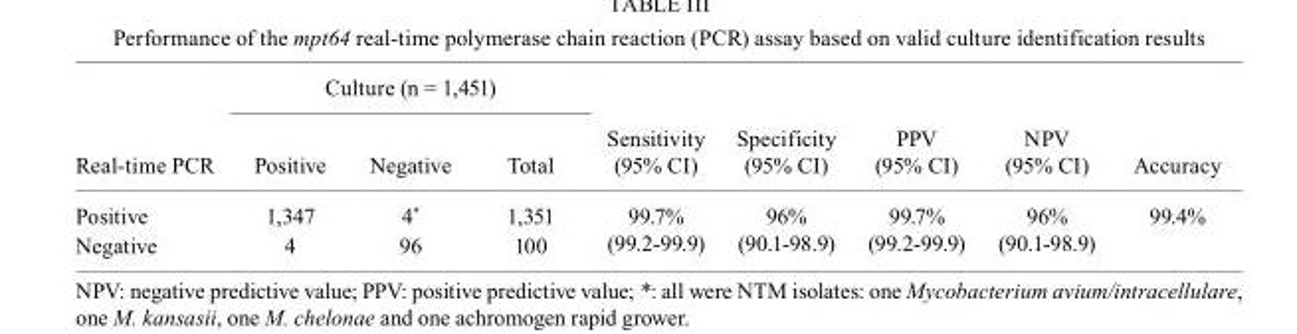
<table><thead><tr><td rowspan="2">Real-time PCR</td><td colspan="3">Culture (n = 1,451)</td><td rowspan="2">Sensitivity (95% CI)</td><td rowspan="2">Specificity (95% CI)</td><td rowspan="2">PPV (95% CI)</td><td rowspan="2">NPV (95% CI)</td><td rowspan="2">Accuracy</td></tr><tr><td>Positive</td><td>Negative</td><td>Total</td></tr></thead><tbody><tr><td>Positive</td><td>1,347</td><td>4*</td><td>1,351</td><td rowspan="2">99.7% (99.2-99.9)</td><td rowspan="2">96% (90.1-98.9)</td><td rowspan="2">99.7% (99.2-99.9)</td><td rowspan="2">96% (90.1-98.9)</td><td rowspan="2">99.4%</td></tr><tr><td>Negative</td><td>4</td><td>96</td><td>100</td></tr></tbody></table>